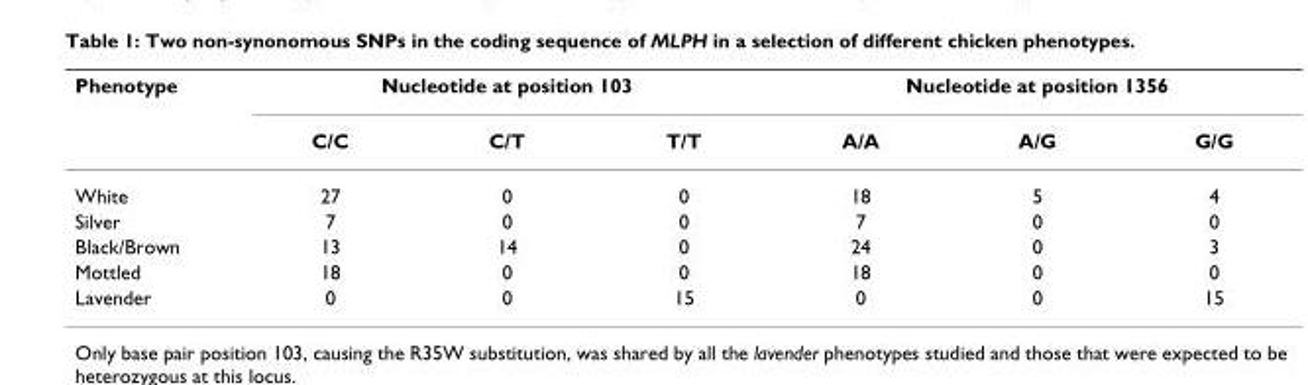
<table><thead><tr><td rowspan="2">Phenotype</td><td colspan="3">Nucleotide at position 103</td><td colspan="3">Nucleotide at position 1356</td></tr><tr><td>C/C</td><td>C/T</td><td>T/T</td><td>A/A</td><td>A/G</td><td>G/G</td></tr></thead><tbody><tr><td>White</td><td>27</td><td>0</td><td>0</td><td>18</td><td>5</td><td>4</td></tr><tr><td>Silver</td><td>7</td><td>0</td><td>0</td><td>7</td><td>0</td><td>0</td></tr><tr><td>Black/Brown</td><td>13</td><td>14</td><td>0</td><td>24</td><td>0</td><td>3</td></tr><tr><td>Mottled</td><td>18</td><td>0</td><td>0</td><td>18</td><td>0</td><td>0</td></tr><tr><td>Lavender</td><td>0</td><td>0</td><td>15</td><td>0</td><td>0</td><td>15</td></tr></tbody></table>